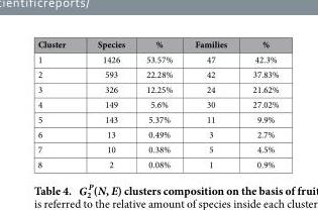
<table><thead><tr><td>Cluster</td><td>Species</td><td>%</td><td>Families</td><td>%</td></tr></thead><tbody><tr><td>1</td><td>1426</td><td>53.57%</td><td>47</td><td>42.3%</td></tr><tr><td>2</td><td>593</td><td>22.28%</td><td>42</td><td>37.83%</td></tr><tr><td>3</td><td>326</td><td>12.25%</td><td>24</td><td>21.62%</td></tr><tr><td>4</td><td>149</td><td>5.6%</td><td>30</td><td>27.02%</td></tr><tr><td>5</td><td>143</td><td>5.37%</td><td>11</td><td>9.9%</td></tr><tr><td>6</td><td>13</td><td>0.49%</td><td>3</td><td>2.7%</td></tr><tr><td>7</td><td>10</td><td>0.38%</td><td>5</td><td>4.5%</td></tr><tr><td>8</td><td>2</td><td>0.08%</td><td>1</td><td>0.9%</td></tr></tbody></table>